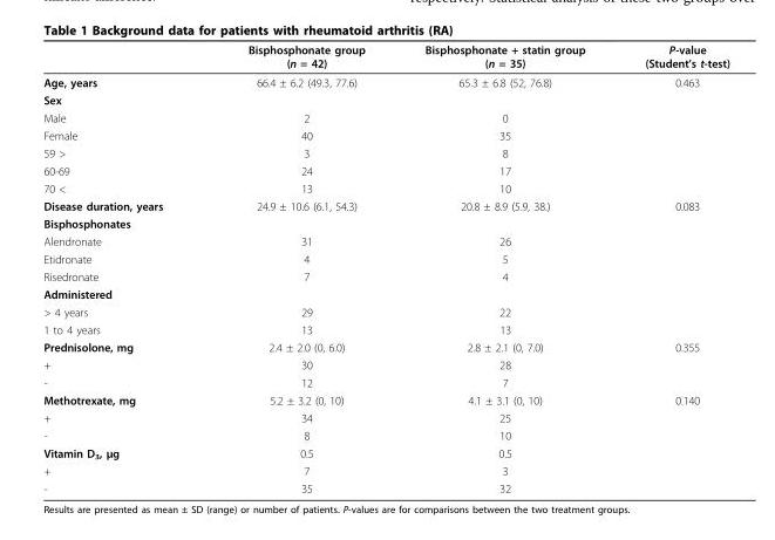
<table><thead><tr><td></td><td>Bisphosphonate group (n = 42)</td><td>Bisphosphonate + statin group (n = 35)</td><td>P-value (Student’s t-test)</td></tr></thead><tbody><tr><td>Age, years</td><td>66.4 ± 6.2 (49.3, 77.6)</td><td>65.3 ± 6.8 (52, 76.8)</td><td>0.463</td></tr><tr><td colspan="4">Sex</td></tr><tr><td>Male</td><td>2</td><td>0</td><td></td></tr><tr><td>Female</td><td>40</td><td>35</td><td></td></tr><tr><td>59 &gt;</td><td>3</td><td>8</td><td></td></tr><tr><td>60-69</td><td>24</td><td>17</td><td></td></tr><tr><td>70 &lt;</td><td>13</td><td>10</td><td></td></tr><tr><td>Disease duration, years</td><td>24.9 ± 10.6 (6.1, 54.3)</td><td>20.8 ± 8.9 (5.9, 38.)</td><td>0.083</td></tr><tr><td colspan="4">Bisphosphonates</td></tr><tr><td>Alendronate</td><td>31</td><td>26</td><td></td></tr><tr><td>Etidronate</td><td>4</td><td>5</td><td></td></tr><tr><td>Risedronate</td><td>7</td><td>4</td><td></td></tr><tr><td colspan="4">Administered</td></tr><tr><td>&gt; 4 years</td><td>29</td><td>22</td><td></td></tr><tr><td>1 to 4 years</td><td>13</td><td>13</td><td></td></tr><tr><td>Prednisolone, mg</td><td>2.4 ± 2.0 (0, 6.0)</td><td>2.8 ± 2.1 (0, 7.0)</td><td>0.355</td></tr><tr><td>+</td><td>30</td><td>28</td><td></td></tr><tr><td>-</td><td>12</td><td>7</td><td></td></tr><tr><td>Methotrexate, mg</td><td>5.2 ± 3.2 (0, 10)</td><td>4.1 ± 3.1 (0, 10)</td><td>0.140</td></tr><tr><td>+</td><td>34</td><td>25</td><td></td></tr><tr><td>-</td><td>8</td><td>10</td><td></td></tr><tr><td>Vitamin D<sub>3</sub>, μg</td><td>0.5</td><td>0.5</td><td></td></tr><tr><td>+</td><td>7</td><td>3</td><td></td></tr><tr><td>-</td><td>35</td><td>32</td><td></td></tr></tbody></table>